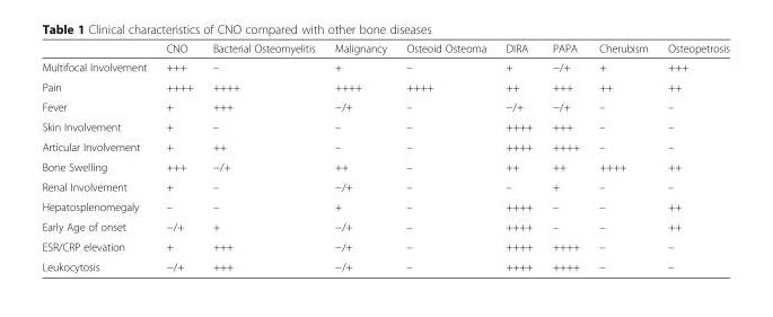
<table><thead><tr><td></td><td>CNO</td><td>Bacterial Osteomyelitis</td><td>Malignancy</td><td>Osteoid Osteoma</td><td>DIRA</td><td>PAPA</td><td>Cherubism</td><td>Osteopetrosis</td></tr></thead><tbody><tr><td>Multifocal Involvement</td><td>+++</td><td>–</td><td>+</td><td>–</td><td>+</td><td>−/+</td><td>+</td><td>+++</td></tr><tr><td>Pain</td><td>++++</td><td>++++</td><td>++++</td><td>++++</td><td>++</td><td>+++</td><td>++</td><td>++</td></tr><tr><td>Fever</td><td>+</td><td>+++</td><td>−/+</td><td>–</td><td>−/+</td><td>−/+</td><td>–</td><td>–</td></tr><tr><td>Skin Involvement</td><td>+</td><td>–</td><td>–</td><td>–</td><td>++++</td><td>+++</td><td>–</td><td>–</td></tr><tr><td>Articular Involvement</td><td>+</td><td>++</td><td>–</td><td>–</td><td>++++</td><td>++++</td><td>–</td><td>–</td></tr><tr><td>Bone Swelling</td><td>+++</td><td>−/+</td><td>++</td><td>–</td><td>++</td><td>++</td><td>++++</td><td>++</td></tr><tr><td>Renal Involvement</td><td>+</td><td>–</td><td>−/+</td><td>–</td><td>–</td><td>+</td><td>–</td><td>–</td></tr><tr><td>Hepatosplenomegaly</td><td>–</td><td>–</td><td>+</td><td>–</td><td>++++</td><td>–</td><td>–</td><td>++</td></tr><tr><td>Early Age of onset</td><td>−/+</td><td>+</td><td>−/+</td><td>–</td><td>++++</td><td>–</td><td>–</td><td>++</td></tr><tr><td>ESR/CRP elevation</td><td>+</td><td>+++</td><td>−/+</td><td>–</td><td>++++</td><td>++++</td><td>–</td><td>–</td></tr><tr><td>Leukocytosis</td><td>−/+</td><td>+++</td><td>−/+</td><td>–</td><td>++++</td><td>++++</td><td>–</td><td>–</td></tr></tbody></table>